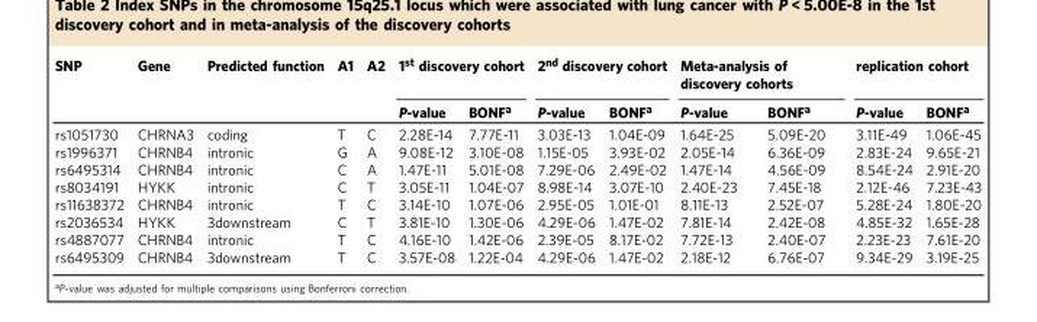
<table><thead><tr><td rowspan="2">SNP</td><td rowspan="2">Gene</td><td rowspan="2">Predicted function</td><td rowspan="2">A1</td><td rowspan="2">A2</td><td colspan="2">1<sup>st</sup> discovery cohort</td><td colspan="2">2<sup>nd</sup> discovery cohort</td><td colspan="2">Meta-analysis of discovery cohorts</td><td colspan="2">replication cohort</td></tr><tr><td>P-value</td><td>BONF<sup>a</sup></td><td>P-value</td><td>BONF<sup>a</sup></td><td>P-value</td><td>BONF<sup>a</sup></td><td>P-value</td><td>BONF<sup>a</sup></td></tr></thead><tbody><tr><td>rs1051730</td><td>CHRNA3</td><td>coding</td><td>T</td><td>C</td><td>2.28E-14</td><td>7.77E-11</td><td>3.03E-13</td><td>1.04E-09</td><td>1.64E-25</td><td>5.09E-20</td><td>3.11E-49</td><td>1.06E-45</td></tr><tr><td>rs1996371</td><td>CHRNB4</td><td>intronic</td><td>G</td><td>A</td><td>9.08E-12</td><td>3.10E-08</td><td>1.15E-05</td><td>3.93E-02</td><td>2.05E-14</td><td>6.36E-09</td><td>2.83E-24</td><td>9.65E-21</td></tr><tr><td>rs6495314</td><td>CHRNB4</td><td>intronic</td><td>C</td><td>A</td><td>1.47E-11</td><td>5.01E-08</td><td>7.29E-06</td><td>2.49E-02</td><td>1.47E-14</td><td>4.56E-09</td><td>8.54E-24</td><td>2.91E-20</td></tr><tr><td>rs8034191</td><td>HYKK</td><td>intronic</td><td>C</td><td>T</td><td>3.05E-11</td><td>1.04E-07</td><td>8.98E-14</td><td>3.07E-10</td><td>2.40E-23</td><td>7.45E-18</td><td>2.12E-46</td><td>7.23E-43</td></tr><tr><td>rs11638372</td><td>CHRNB4</td><td>intronic</td><td>T</td><td>C</td><td>3.14E-10</td><td>1.07E-06</td><td>2.95E-05</td><td>1.01E-01</td><td>8.11E-13</td><td>2.52E-07</td><td>5.28E-24</td><td>1.80E-20</td></tr><tr><td>rs2036534</td><td>HYKK</td><td>3downstream</td><td>C</td><td>T</td><td>3.81E-10</td><td>1.30E-06</td><td>4.29E-06</td><td>1.47E-02</td><td>7.81E-14</td><td>2.42E-08</td><td>4.85E-32</td><td>1.65E-28</td></tr><tr><td>rs4887077</td><td>CHRNB4</td><td>intronic</td><td>T</td><td>C</td><td>4.16E-10</td><td>1.42E-06</td><td>2.39E-05</td><td>8.17E-02</td><td>7.72E-13</td><td>2.40E-07</td><td>2.23E-23</td><td>7.61E-20</td></tr><tr><td>rs6495309</td><td>CHRNB4</td><td>3downstream</td><td>T</td><td>C</td><td>3.57E-08</td><td>1.22E-04</td><td>4.29E-06</td><td>1.47E-02</td><td>2.18E-12</td><td>6.76E-07</td><td>9.34E-29</td><td>3.19E-25</td></tr></tbody></table>